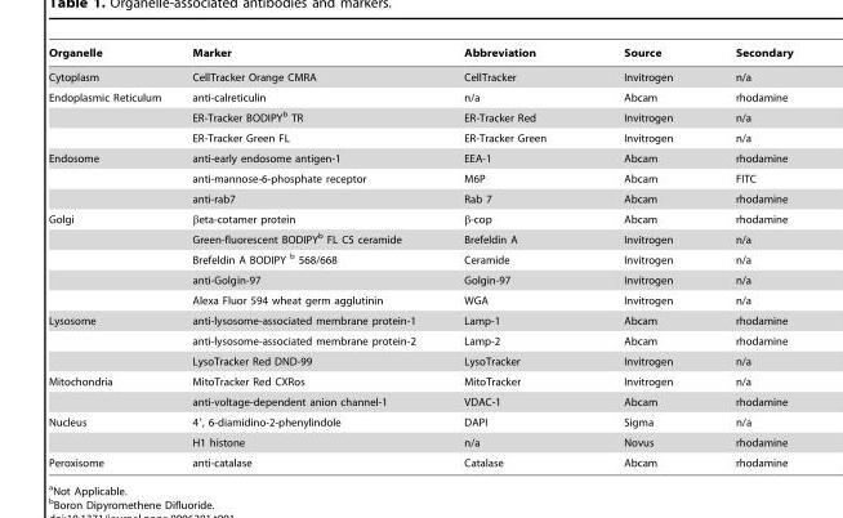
<table><thead><tr><td>Organelle</td><td>Marker</td><td>Abbreviation</td><td>Source</td><td>Secondary</td></tr></thead><tbody><tr><td>Cytoplasm</td><td>CellTracker Orange CMRA</td><td>CellTracker</td><td>Invitrogen</td><td>n/a</td></tr><tr><td rowspan="3">Endoplasmic Reticulum</td><td>anti-calreticulin</td><td>n/a</td><td>Abcam</td><td>rhodamine</td></tr><tr><td>ER-Tracker BODIPY<sup>b</sup> TR</td><td>ER-Tracker Red</td><td>Invitrogen</td><td>n/a</td></tr><tr><td>ER-Tracker Green FL</td><td>ER-Tracker Green</td><td>Invitrogen</td><td>n/a</td></tr><tr><td rowspan="3">Endosome</td><td>anti-early endosome antigen-1</td><td>EEA-1</td><td>Abcam</td><td>rhodamine</td></tr><tr><td>anti-mannose-6-phosphate receptor</td><td>M6P</td><td>Abcam</td><td>FITC</td></tr><tr><td>anti-rab7</td><td>Rab 7</td><td>Abcam</td><td>rhodamine</td></tr><tr><td rowspan="5">Golgi</td><td>βeta-cotamer protein</td><td>β-cop</td><td>Abcam</td><td>rhodamine</td></tr><tr><td>Green-fluorescent BODIPY<sup>b</sup> FL C5 ceramide</td><td>Brefeldin A</td><td>Invitrogen</td><td>n/a</td></tr><tr><td>Brefeldin A BODIPY b 568/668</td><td>Ceramide</td><td>Invitrogen</td><td>n/a</td></tr><tr><td>anti-Golgin-97</td><td>Golgin-97</td><td>Invitrogen</td><td>n/a</td></tr><tr><td>Alexa Fluor 594 wheat germ agglutinin</td><td>WGA</td><td>Invitrogen</td><td>n/a</td></tr><tr><td rowspan="3">Lysosome</td><td>anti-lysosome-associated membrane protein-1</td><td>Lamp-1</td><td>Abcam</td><td>rhodamine</td></tr><tr><td>anti-lysosome-associated membrane protein-2</td><td>Lamp-2</td><td>Abcam</td><td>rhodamine</td></tr><tr><td>LysoTracker Red DND-99</td><td>LysoTracker</td><td>Invitrogen</td><td>n/a</td></tr><tr><td rowspan="2">Mitochondria</td><td>MitoTracker Red CXRos</td><td>MitoTracker</td><td>Invitrogen</td><td>n/a</td></tr><tr><td>anti-voltage-dependent anion channel-1</td><td>VDAC-1</td><td>Abcam</td><td>rhodamine</td></tr><tr><td rowspan="2">Nucleus</td><td>4′, 6-diamidino-2-phenylindole</td><td>DAPI</td><td>Sigma</td><td>n/a</td></tr><tr><td>H1 histone</td><td>n/a</td><td>Novus</td><td>rhodamine</td></tr><tr><td>Peroxisome</td><td>anti-catalase</td><td>Catalase</td><td>Abcam</td><td>rhodamine</td></tr></tbody></table>